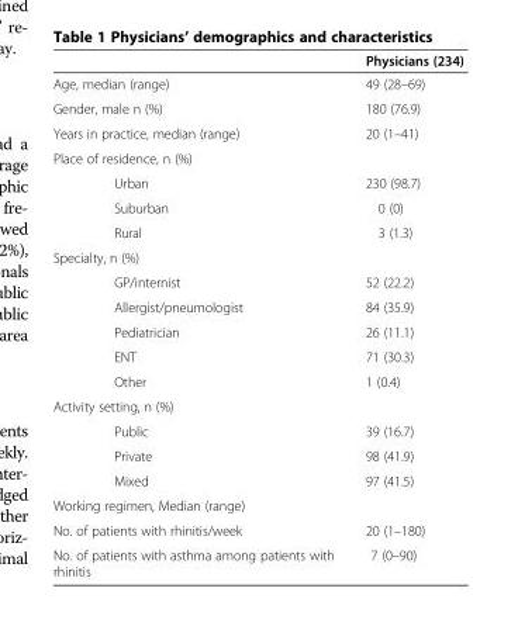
<table><thead><tr><td></td><td>Physicians (234)</td></tr></thead><tbody><tr><td>Age, median (range)</td><td>49 (28–69)</td></tr><tr><td>Gender, male n (%)</td><td>180 (76.9)</td></tr><tr><td>Years in practice, median (range)</td><td>20 (1–41)</td></tr><tr><td colspan="2">Place of residence, n (%)</td></tr><tr><td>Urban</td><td>230 (98.7)</td></tr><tr><td>Suburban</td><td>0 (0)</td></tr><tr><td>Rural</td><td>3 (1.3)</td></tr><tr><td colspan="2">Specialty, n (%)</td></tr><tr><td>GP/internist</td><td>52 (22.2)</td></tr><tr><td>Allergist/pneumologist</td><td>84 (35.9)</td></tr><tr><td>Pediatrician</td><td>26 (11.1)</td></tr><tr><td>ENT</td><td>71 (30.3)</td></tr><tr><td>Other</td><td>1 (0.4)</td></tr><tr><td colspan="2">Activity setting, n (%)</td></tr><tr><td>Public</td><td>39 (16.7)</td></tr><tr><td>Private</td><td>98 (41.9)</td></tr><tr><td>Mixed</td><td>97 (41.5)</td></tr><tr><td colspan="2">Working regimen, Median (range)</td></tr><tr><td>No. of patients with rhinitis/week</td><td>20 (1–180)</td></tr><tr><td>No. of patients with asthma among patients with rhinitis</td><td>7 (0–90)</td></tr></tbody></table>